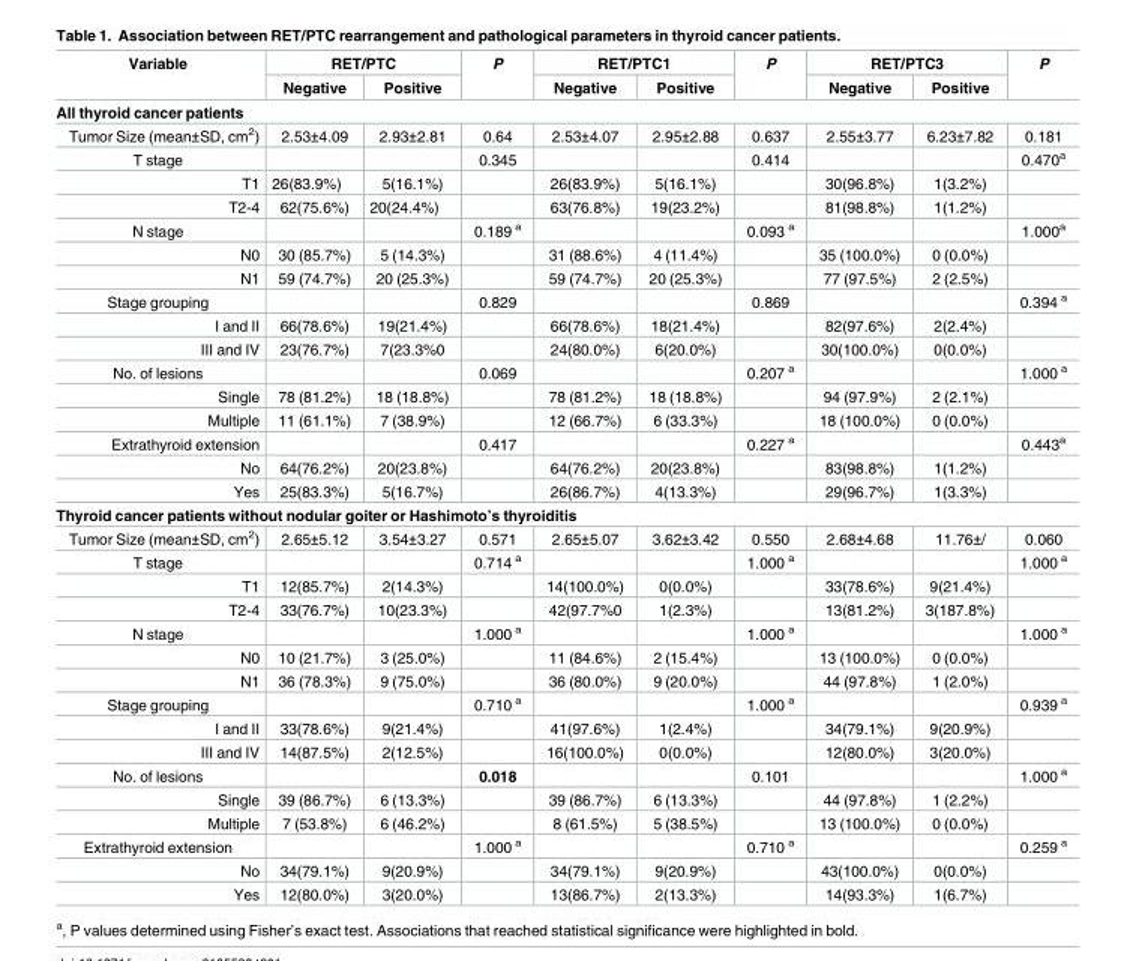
<table><thead><tr><td rowspan="2">Variable</td><td colspan="2">RET/PTC</td><td rowspan="2">P</td><td colspan="2">RET/PTC1</td><td rowspan="2">P</td><td colspan="2">RET/PTC3</td><td rowspan="2">P</td></tr><tr><td>Negative</td><td>Positive</td><td>Negative</td><td>Positive</td><td>Negative</td><td>Positive</td></tr></thead><tbody><tr><td colspan="10">All thyroid cancer patients</td></tr><tr><td>Tumor Size (mean±SD, cm<sup>2</sup>)</td><td>2.53±4.09</td><td>2.93±2.81</td><td>0.64</td><td>2.53±4.07</td><td>2.95±2.88</td><td>0.637</td><td>2.55±3.77</td><td>6.23±7.82</td><td>0.181</td></tr><tr><td>T stage</td><td></td><td></td><td>0.345</td><td></td><td></td><td>0.414</td><td></td><td></td><td>0.470<sup>a</sup></td></tr><tr><td>T1</td><td>26(83.9%)</td><td>5(16.1%)</td><td></td><td>26(83.9%)</td><td>5(16.1%)</td><td></td><td>30(96.8%)</td><td>1(3.2%)</td><td></td></tr><tr><td>T2-4</td><td>62(75.6%)</td><td>20(24.4%)</td><td></td><td>63(76.8%)</td><td>19(23.2%)</td><td></td><td>81(98.8%)</td><td>1(1.2%)</td><td></td></tr><tr><td>N stage</td><td></td><td></td><td>0.189 <sup>a</sup></td><td></td><td></td><td>0.093 <sup>a</sup></td><td></td><td></td><td>1.000<sup>a</sup></td></tr><tr><td>N0</td><td>30 (85.7%)</td><td>5 (14.3%)</td><td></td><td>31 (88.6%)</td><td>4 (11.4%)</td><td></td><td>35 (100.0%)</td><td>0 (0.0%)</td><td></td></tr><tr><td>N1</td><td>59 (74.7%)</td><td>20 (25.3%)</td><td></td><td>59 (74.7%)</td><td>20 (25.3%)</td><td></td><td>77 (97.5%)</td><td>2 (2.5%)</td><td></td></tr><tr><td>Stage grouping</td><td></td><td></td><td>0.829</td><td></td><td></td><td>0.869</td><td></td><td></td><td>0.394 <sup>a</sup></td></tr><tr><td>I and II</td><td>66(78.6%)</td><td>19(21.4%)</td><td></td><td>66(78.6%)</td><td>18(21.4%)</td><td></td><td>82(97.6%)</td><td>2(2.4%)</td><td></td></tr><tr><td>III and IV</td><td>23(76.7%)</td><td>7(23.3%0</td><td></td><td>24(80.0%)</td><td>6(20.0%)</td><td></td><td>30(100.0%)</td><td>0(0.0%)</td><td></td></tr><tr><td>No. of lesions</td><td></td><td></td><td>0.069</td><td></td><td></td><td>0.207 <sup>a</sup></td><td></td><td></td><td>1.000 <sup>a</sup></td></tr><tr><td>Single</td><td>78 (81.2%)</td><td>18 (18.8%)</td><td></td><td>78 (81.2%)</td><td>18 (18.8%)</td><td></td><td>94 (97.9%)</td><td>2 (2.1%)</td><td></td></tr><tr><td>Multiple</td><td>11 (61.1%)</td><td>7 (38.9%)</td><td></td><td>12 (66.7%)</td><td>6 (33.3%)</td><td></td><td>18 (100.0%)</td><td>0 (0.0%)</td><td></td></tr><tr><td>Extrathyroid extension</td><td></td><td></td><td>0.417</td><td></td><td></td><td>0.227 <sup>a</sup></td><td></td><td></td><td>0.443<sup>a</sup></td></tr><tr><td>No</td><td>64(76.2%)</td><td>20(23.8%)</td><td></td><td>64(76.2%)</td><td>20(23.8%)</td><td></td><td>83(98.8%)</td><td>1(1.2%)</td><td></td></tr><tr><td>Yes</td><td>25(83.3%)</td><td>5(16.7%)</td><td></td><td>26(86.7%)</td><td>4(13.3%)</td><td></td><td>29(96.7%)</td><td>1(3.3%)</td><td></td></tr><tr><td colspan="10">Thyroid cancer patients without nodular goiter or Hashimoto’s thyroiditis</td></tr><tr><td>Tumor Size (mean±SD, cm<sup>2</sup>)</td><td>2.65±5.12</td><td>3.54±3.27</td><td>0.571</td><td>2.65±5.07</td><td>3.62±3.42</td><td>0.550</td><td>2.68±4.68</td><td>11.76±/</td><td>0.060</td></tr><tr><td>T stage</td><td></td><td></td><td>0.714 <sup>a</sup></td><td></td><td></td><td>1.000 <sup>a</sup></td><td></td><td></td><td>1.000 <sup>a</sup></td></tr><tr><td>T1</td><td>12(85.7%)</td><td>2(14.3%)</td><td></td><td>14(100.0%)</td><td>0(0.0%)</td><td></td><td>33(78.6%)</td><td>9(21.4%)</td><td></td></tr><tr><td>T2-4</td><td>33(76.7%)</td><td>10(23.3%)</td><td></td><td>42(97.7%0</td><td>1(2.3%)</td><td></td><td>13(81.2%)</td><td>3(187.8%)</td><td></td></tr><tr><td>N stage</td><td></td><td></td><td>1.000 <sup>a</sup></td><td></td><td></td><td>1.000 <sup>a</sup></td><td></td><td></td><td>1.000 <sup>a</sup></td></tr><tr><td>N0</td><td>10 (21.7%)</td><td>3 (25.0%)</td><td></td><td>11 (84.6%)</td><td>2 (15.4%)</td><td></td><td>13 (100.0%)</td><td>0 (0.0%)</td><td></td></tr><tr><td>N1</td><td>36 (78.3%)</td><td>9 (75.0%)</td><td></td><td>36 (80.0%)</td><td>9 (20.0%)</td><td></td><td>44 (97.8%)</td><td>1 (2.0%)</td><td></td></tr><tr><td>Stage grouping</td><td></td><td></td><td>0.710 <sup>a</sup></td><td></td><td></td><td>1.000 <sup>a</sup></td><td></td><td></td><td>0.939 <sup>a</sup></td></tr><tr><td>I and II</td><td>33(78.6%)</td><td>9(21.4%)</td><td></td><td>41(97.6%)</td><td>1(2.4%)</td><td></td><td>34(79.1%)</td><td>9(20.9%)</td><td></td></tr><tr><td>III and IV</td><td>14(87.5%)</td><td>2(12.5%)</td><td></td><td>16(100.0%)</td><td>0(0.0%)</td><td></td><td>12(80.0%)</td><td>3(20.0%)</td><td></td></tr><tr><td>No. of lesions</td><td></td><td></td><td>0.018</td><td></td><td></td><td>0.101</td><td></td><td></td><td>1.000 <sup>a</sup></td></tr><tr><td>Single</td><td>39 (86.7%)</td><td>6 (13.3%)</td><td></td><td>39 (86.7%)</td><td>6 (13.3%)</td><td></td><td>44 (97.8%)</td><td>1 (2.2%)</td><td></td></tr><tr><td>Multiple</td><td>7 (53.8%)</td><td>6 (46.2%)</td><td></td><td>8 (61.5%)</td><td>5 (38.5%)</td><td></td><td>13 (100.0%)</td><td>0 (0.0%)</td><td></td></tr><tr><td>Extrathyroid extension</td><td></td><td></td><td>1.000 <sup>a</sup></td><td></td><td></td><td>0.710 <sup>a</sup></td><td></td><td></td><td>0.259 <sup>a</sup></td></tr><tr><td>No</td><td>34(79.1%)</td><td>9(20.9%)</td><td></td><td>34(79.1%)</td><td>9(20.9%)</td><td></td><td>43(100.0%)</td><td>0(0.0%)</td><td></td></tr><tr><td>Yes</td><td>12(80.0%)</td><td>3(20.0%)</td><td></td><td>13(86.7%)</td><td>2(13.3%)</td><td></td><td>14(93.3%)</td><td>1(6.7%)</td><td></td></tr></tbody></table>